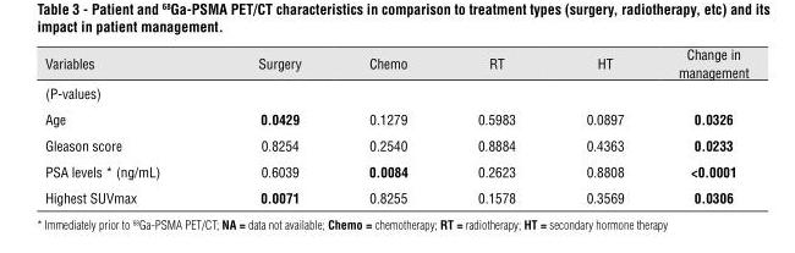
<table><thead><tr><td>Variables</td><td>Surgery</td><td>Chemo</td><td>RT</td><td>HT</td><td>Change in management</td></tr></thead><tbody><tr><td colspan="6">(P-values)</td></tr><tr><td>Age</td><td>0.0429</td><td>0.1279</td><td>0.5983</td><td>0.0897</td><td>0.0326</td></tr><tr><td>Gleason score</td><td>0.8254</td><td>0.2540</td><td>0.8884</td><td>0.4363</td><td>0.0233</td></tr><tr><td>PSA levels * (ng/mL)</td><td>0.6039</td><td>0.0084</td><td>0.2623</td><td>0.8808</td><td>&lt;0.0001</td></tr><tr><td>Highest SUVmax</td><td>0.0071</td><td>0.8255</td><td>0.1578</td><td>0.3569</td><td>0.0306</td></tr></tbody></table>